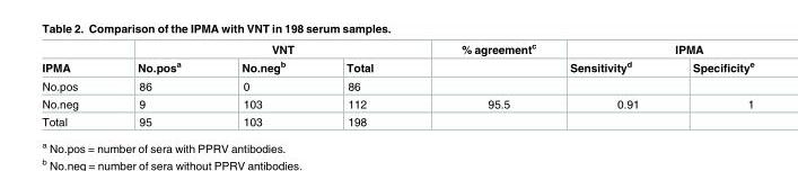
<table><thead><tr><td rowspan="2">IPMA</td><td colspan="3">VNT</td><td rowspan="2">% agreement<sup>c</sup></td><td colspan="2">IPMA</td></tr><tr><td>No.pos<sup>a</sup></td><td>No.neg<sup>b</sup></td><td>Total</td><td>Sensitivity<sup>d</sup></td><td>Specificity<sup>e</sup></td></tr></thead><tbody><tr><td>No.pos</td><td>86</td><td>0</td><td>86</td><td></td><td></td><td></td></tr><tr><td>No.neg</td><td>9</td><td>103</td><td>112</td><td>95.5</td><td>0.91</td><td>1</td></tr><tr><td>Total</td><td>95</td><td>103</td><td>198</td><td></td><td></td><td></td></tr></tbody></table>